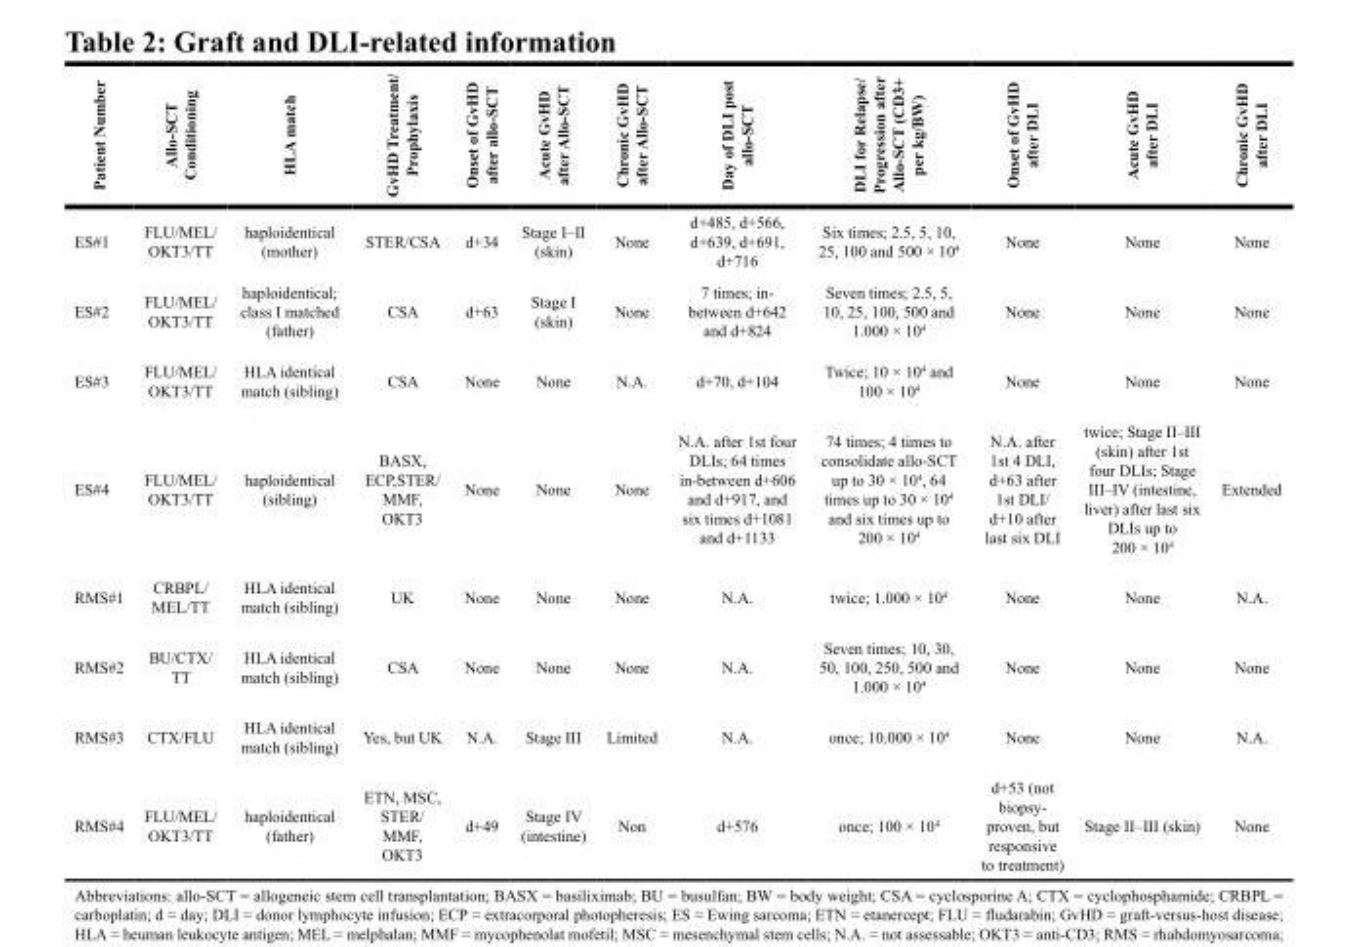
<table><thead><tr><td>Patient Number</td><td>Allo-SCT Conditioning</td><td>HLA match</td><td>GvHD Treatment/ Prophylaxis</td><td>Onset of GvHD after allo-SCT</td><td>Acute GvHD after Allo-SCT</td><td>Chronic GvHD after Allo-SCT</td><td>Day of DLI post allo-SCT</td><td>DLI for Relapse/ Progression after Allo-SCT (CD3+ per kg/BW)</td><td>Onset of GvHD after DLI</td><td>Acute GvHD after DLI</td><td>Chronic GvHD after DLI</td></tr></thead><tbody><tr><td>ES#1</td><td>FLU/MEL/ OKT3/TT</td><td>haploidentical (mother)</td><td>STER/CSA</td><td>d+34</td><td>Stage I–II (skin)</td><td>None</td><td>d+485, d+566, d+639, d+691, d+716</td><td>Six times; 2.5, 5, 10, 25, 100 and 500 × 10<sup>4</sup></td><td>None</td><td>None</td><td>None</td></tr><tr><td>ES#2</td><td>FLU/MEL/ OKT3/TT</td><td>haploidentical; class I matched (father)</td><td>CSA</td><td>d+63</td><td>Stage I (skin)</td><td>None</td><td>7 times; in- between d+642 and d+824</td><td>Seven times; 2.5, 5, 10, 25, 100, 500 and 1.000 × 10<sup>4</sup></td><td>None</td><td>None</td><td>None</td></tr><tr><td>ES#3</td><td>FLU/MEL/ OKT3/TT</td><td>HLA identical match (sibling)</td><td>CSA</td><td>None</td><td>None</td><td>N.A.</td><td>d+70, d+104</td><td>Twice; 10 × 10<sup>4</sup> and 100 × 10<sup>4</sup></td><td>None</td><td>None</td><td>None</td></tr><tr><td>ES#4</td><td>FLU/MEL/ OKT3/TT</td><td>haploidentical (sibling)</td><td>BASX, ECP,STER/ MMF, OKT3</td><td>None</td><td>None</td><td>None</td><td>N.A. after 1st four DLIs; 64 times in-between d+606 and d+917, and six times d+1081 and d+1133</td><td>74 times; 4 times to consolidate allo-SCT up to 30 × 10<sup>4</sup>, 64 times up to 30 × 10<sup>4</sup> and six times up to 200 × 10<sup>4</sup></td><td>N.A. after 1st 4 DLI, d+63 after 1st DLI/ d+10 after last six DLI</td><td>twice; Stage II–III (skin) after 1st four DLIs; Stage III–IV (intestine, liver) after last six DLIs up to 200 × 10<sup>4</sup></td><td>Extended</td></tr><tr><td>RMS#1</td><td>CRBPL/ MEL/TT</td><td>HLA identical match (sibling)</td><td>UK</td><td>None</td><td>None</td><td>None</td><td>N.A.</td><td>twice; 1.000 × 10<sup>4</sup></td><td>None</td><td>None</td><td>N.A.</td></tr><tr><td>RMS#2</td><td>BU/CTX/ TT</td><td>HLA identical match (sibling)</td><td>CSA</td><td>None</td><td>None</td><td>None</td><td>N.A.</td><td>Seven times; 10, 30, 50, 100, 250, 500 and 1.000 × 10<sup>4</sup></td><td>None</td><td>None</td><td>None</td></tr><tr><td>RMS#3</td><td>CTX/FLU</td><td>HLA identical match (sibling)</td><td>Yes, but UK</td><td>N.A.</td><td>Stage III</td><td>Limited</td><td>N.A.</td><td>once; 10.000 × 10<sup>4</sup></td><td>None</td><td>None</td><td>N.A.</td></tr><tr><td>RMS#4</td><td>FLU/MEL/ OKT3/TT</td><td>haploidentical (father)</td><td>ETN, MSC, STER/ MMF, OKT3</td><td>d+49</td><td>Stage IV (intestine)</td><td>Non</td><td>d+576</td><td>once; 100 × 10<sup>4</sup></td><td>d+53 (not biopsy- proven, but responsive to treatment)</td><td>Stage II–III (skin)</td><td>None</td></tr></tbody></table>